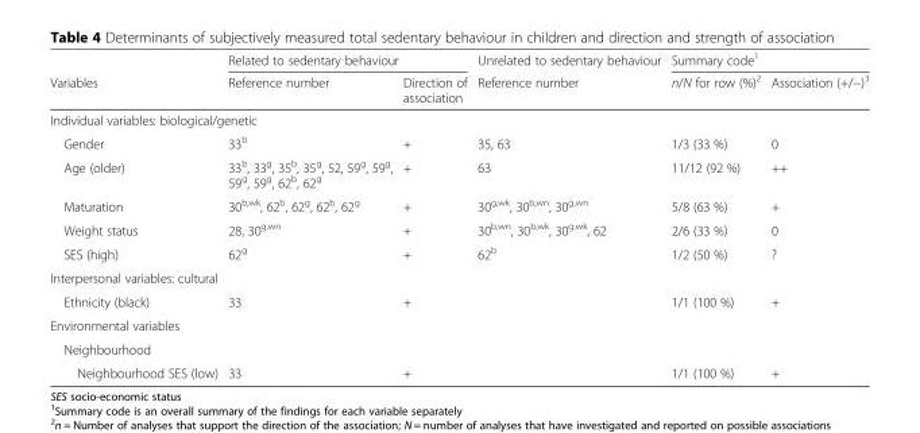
<table><thead><tr><td rowspan="2">Variables</td><td colspan="2">Related to sedentary behaviour</td><td rowspan="2">Unrelated to sedentary behaviour Reference number</td><td colspan="2">Summary code<sup>1</sup></td></tr><tr><td>Reference number</td><td>Direction of association</td><td>n/N for row (%)<sup>2</sup></td><td>Association (+/−)<sup>3</sup></td></tr></thead><tbody><tr><td colspan="6">Individual variables: biological/genetic</td></tr><tr><td>Gender</td><td>33<sup>b</sup></td><td>+</td><td>35, 63</td><td>1/3 (33 %)</td><td>0</td></tr><tr><td>Age (older)</td><td>33<sup>b</sup>, 33<sup>g</sup>, 35<sup>b</sup>, 35<sup>g</sup>, 52, 59<sup>g</sup>, 59<sup>g</sup>, 59<sup>g</sup>, 59<sup>g</sup>, 62<sup>b</sup>, 62<sup>g</sup></td><td>+</td><td>63</td><td>11/12 (92 %)</td><td>++</td></tr><tr><td>Maturation</td><td>30<sup>b,wk</sup>, 62<sup>b</sup>, 62<sup>g</sup>, 62<sup>b</sup>, 62<sup>g</sup></td><td>+</td><td>30<sup>g,wk</sup>, 30<sup>b,wn</sup>, 30<sup>g,wn</sup></td><td>5/8 (63 %)</td><td>+</td></tr><tr><td>Weight status</td><td>28, 30<sup>g,wn</sup></td><td>+</td><td>30<sup>b,wn</sup>, 30<sup>b,wk</sup>, 30<sup>g,wk</sup>, 62</td><td>2/6 (33 %)</td><td>0</td></tr><tr><td>SES (high)</td><td>62<sup>g</sup></td><td>+</td><td>62<sup>b</sup></td><td>1/2 (50 %)</td><td>?</td></tr><tr><td colspan="6">Interpersonal variables: cultural</td></tr><tr><td>Ethnicity (black)</td><td>33</td><td>+</td><td></td><td>1/1 (100 %)</td><td>+</td></tr><tr><td colspan="6">Environmental variables</td></tr><tr><td colspan="6">Neighbourhood</td></tr><tr><td>Neighbourhood SES (low)</td><td>33</td><td>+</td><td></td><td>1/1 (100 %)</td><td>+</td></tr></tbody></table>